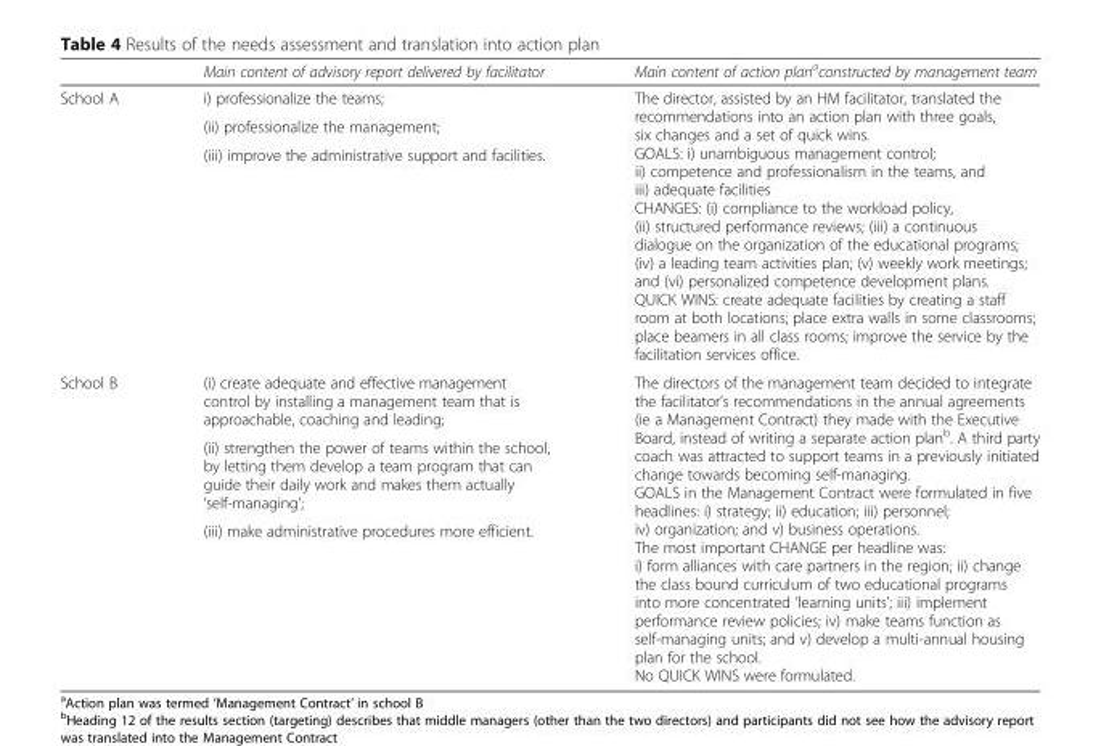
<table><thead><tr><td></td><td>Main content of advisory report delivered by facilitator</td><td>Main content of action plan<sup>a</sup>constructed by management team</td></tr></thead><tbody><tr><td rowspan="3">School A</td><td>i) professionalize the teams;</td><td rowspan="3">The director, assisted by an HM facilitator, translated the recommendations into an action plan with three goals, six changes and a set of quick wins. GOALS: i) unambiguous management control; ii) competence and professionalism in the teams, and iii) adequate facilities CHANGES: (i) compliance to the workload policy, (ii) structured performance reviews; (iii) a continuous dialogue on the organization of the educational programs; (iv) a leading team activities plan; (v) weekly work meetings; and (vi) personalized competence development plans. QUICK WINS: create adequate facilities by creating a staff room at both locations; place extra walls in some classrooms; place beamers in all class rooms; improve the service by the facilitation services office.</td></tr><tr><td>(ii) professionalize the management;</td></tr><tr><td>(iii) improve the administrative support and facilities.</td></tr><tr><td rowspan="3">School B</td><td>(i) create adequate and effective management control by installing a management team that is approachable, coaching and leading;</td><td rowspan="3">The directors of the management team decided to integrate the facilitator’s recommendations in the annual agreements (ie a Management Contract) they made with the Executive Board, instead of writing a separate action plan<sup>b</sup>. A third party coach was attracted to support teams in a previously initiated change towards becoming self-managing. GOALS in the Management Contract were formulated in five headlines: i) strategy; ii) education; iii) personnel; iv) organization; and v) business operations. The most important CHANGE per headline was: i) form alliances with care partners in the region; ii) change the class bound curriculum of two educational programs into more concentrated ‘learning units’; iii) implement performance review policies; iv) make teams function as self-managing units; and v) develop a multi-annual housing plan for the school. No QUICK WINS were formulated.</td></tr><tr><td>(ii) strengthen the power of teams within the school, by letting them develop a team program that can guide their daily work and makes them actually ‘self-managing’;</td></tr><tr><td>(iii) make administrative procedures more efficient.</td></tr></tbody></table>